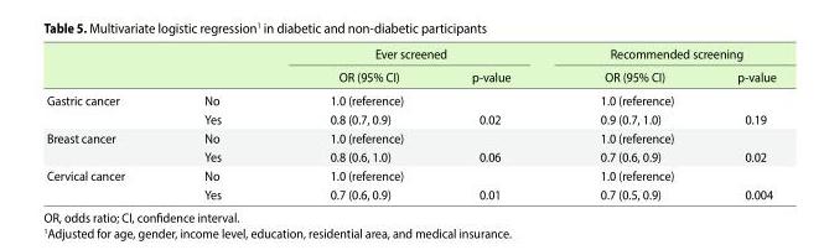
<table><thead><tr><td rowspan="2"></td><td rowspan="2"></td><td colspan="2">Ever screened</td><td colspan="2">Recommended screening</td></tr><tr><td>OR (95% CI)</td><td>p-value</td><td>OR (95% CI)</td><td>p-value</td></tr></thead><tbody><tr><td rowspan="2">Gastric cancer</td><td>No</td><td>1.0 (reference)</td><td></td><td>1.0 (reference)</td><td></td></tr><tr><td>Yes</td><td>0.8 (0.7, 0.9)</td><td>0.02</td><td>0.9 (0.7, 1.0)</td><td>0.19</td></tr><tr><td rowspan="2">Breast cancer</td><td>No</td><td>1.0 (reference)</td><td></td><td>1.0 (reference)</td><td></td></tr><tr><td>Yes</td><td>0.8 (0.6, 1.0)</td><td>0.06</td><td>0.7 (0.6, 0.9)</td><td>0.02</td></tr><tr><td rowspan="2">Cervical cancer</td><td>No</td><td>1.0 (reference)</td><td></td><td>1.0 (reference)</td><td></td></tr><tr><td>Yes</td><td>0.7 (0.6, 0.9)</td><td>0.01</td><td>0.7 (0.5, 0.9)</td><td>0.004</td></tr></tbody></table>